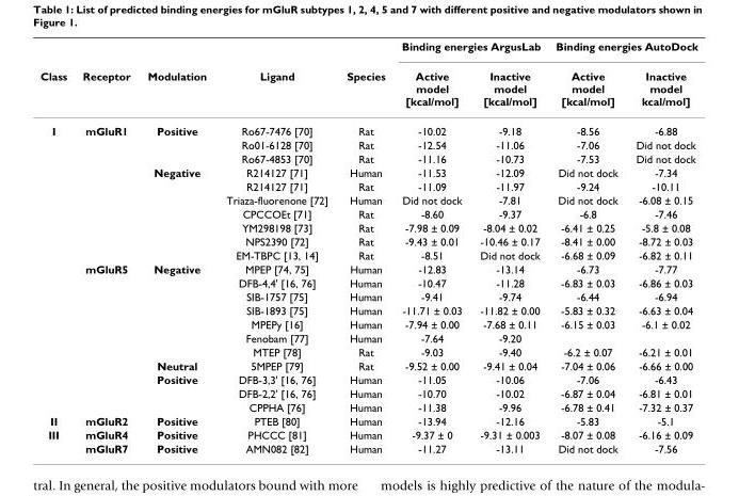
<table><thead><tr><td rowspan="2">Class</td><td rowspan="2">Receptor</td><td rowspan="2">Modulation</td><td rowspan="2">Ligand</td><td rowspan="2">Species</td><td colspan="2">Binding energies ArgusLab</td><td colspan="2">Binding energies AutoDock</td></tr><tr><td>Active model [kcal/mol]</td><td>Inactive model [kcal/mol]</td><td>Active model [kcal/mol]</td><td>Inactive model kcal/mol]</td></tr></thead><tbody><tr><td rowspan="21">I</td><td>mGluR1</td><td>Positive</td><td>Ro67-7476 [70]</td><td>Rat</td><td>-10.02</td><td>-9.18</td><td>-8.56</td><td>-6.88</td></tr><tr><td></td><td></td><td>Ro01-6128 [70]</td><td>Rat</td><td>-12.54</td><td>-11.06</td><td>-7.06</td><td>Did not dock</td></tr><tr><td></td><td></td><td>Ro67-4853 [70]</td><td>Rat</td><td>-11.16</td><td>-10.73</td><td>-7.53</td><td>Did not dock</td></tr><tr><td></td><td>Negative</td><td>R214127 [71]</td><td>Human</td><td>-11.53</td><td>-12.09</td><td>Did not dock</td><td>-7.34</td></tr><tr><td></td><td></td><td>R214127 [71]</td><td>Rat</td><td>-11.09</td><td>-11.97</td><td>-9.24</td><td>-10.11</td></tr><tr><td></td><td></td><td>Triaza-fluorenone [72]</td><td>Human</td><td>Did not dock</td><td>-7.81</td><td>Did not dock</td><td>-6.08 ± 0.15</td></tr><tr><td></td><td></td><td>CPCCOEt [71]</td><td>Rat</td><td>-8.60</td><td>-9.37</td><td>-6.8</td><td>-7.46</td></tr><tr><td></td><td></td><td>YM298198 [73]</td><td>Rat</td><td>-7.98 ± 0.09</td><td>-8.04 ± 0.02</td><td>-6.41 ± 0.25</td><td>-5.8 ± 0.08</td></tr><tr><td></td><td></td><td>NPS2390 [72]</td><td>Rat</td><td>-9.43 ± 0.01</td><td>-10.46 ± 0.17</td><td>-8.41 ± 0.00</td><td>-8.72 ± 0.03</td></tr><tr><td></td><td></td><td>EM-TBPC [13, 14]</td><td>Rat</td><td>-8.51</td><td>Did not dock</td><td>-6.68 ± 0.09</td><td>-6.82 ± 0.11</td></tr><tr><td>mGluR5</td><td>Negative</td><td>MPEP [74, 75]</td><td>Human</td><td>-12.83</td><td>-13.14</td><td>-6.73</td><td>-7.77</td></tr><tr><td></td><td></td><td>DFB-4,4&#x27; [16, 76]</td><td>Human</td><td>-10.47</td><td>-11.28</td><td>-6.83 ± 0.03</td><td>-6.86 ± 0.03</td></tr><tr><td></td><td></td><td>SIB-1757 [75]</td><td>Human</td><td>-9.41</td><td>-9.74</td><td>-6.44</td><td>-6.94</td></tr><tr><td></td><td></td><td>SIB-1893 [75]</td><td>Human</td><td>-11.71 ± 0.03</td><td>-11.82 ± 0.00</td><td>-5.83 ± 0.32</td><td>-6.63 ± 0.04</td></tr><tr><td></td><td></td><td>MPEPy [16]</td><td>Human</td><td>-7.94 ± 0.00</td><td>-7.68 ± 0.11</td><td>-6.15 ± 0.03</td><td>-6.1 ± 0.02</td></tr><tr><td></td><td></td><td>Fenobam [77]</td><td>Human</td><td>-7.64</td><td>-9.20</td><td></td><td></td></tr><tr><td></td><td></td><td>MTEP [78]</td><td>Rat</td><td>-9.03</td><td>-9.40</td><td>-6.2 ± 0.07</td><td>-6.21 ± 0.01</td></tr><tr><td></td><td>Neutral</td><td>5MPEP [79]</td><td>Rat</td><td>-9.52 ± 0.00</td><td>-9.41 ± 0.04</td><td>-7.04 ± 0.06</td><td>-6.66 ± 0.00</td></tr><tr><td></td><td>Positive</td><td>DFB-3,3&#x27; [16, 76]</td><td>Human</td><td>-11.05</td><td>-10.06</td><td>-7.06</td><td>-6.43</td></tr><tr><td></td><td></td><td>DFB-2,2&#x27; [16, 76]</td><td>Human</td><td>-10.70</td><td>-10.02</td><td>-6.87 ± 0.04</td><td>-6.81 ± 0.01</td></tr><tr><td></td><td></td><td>CPPHA [76]</td><td>Human</td><td>-11.38</td><td>-9.96</td><td>-6.78 ± 0.41</td><td>-7.32 ± 0.37</td></tr><tr><td>II</td><td>mGluR2</td><td>Positive</td><td>PTEB [80]</td><td>Human</td><td>-13.94</td><td>-12.16</td><td>-5.83</td><td>-5.1</td></tr><tr><td rowspan="2">III</td><td>mGluR4</td><td>Positive</td><td>PHCCC [81]</td><td>Human</td><td>-9.37 ± 0</td><td>-9.31 ± 0.003</td><td>-8.07 ± 0.08</td><td>-6.16 ± 0.09</td></tr><tr><td>mGluR7</td><td>Positive</td><td>AMN082 [82]</td><td>Human</td><td>-11.27</td><td>-13.11</td><td>Did not dock</td><td>-7.56</td></tr></tbody></table>